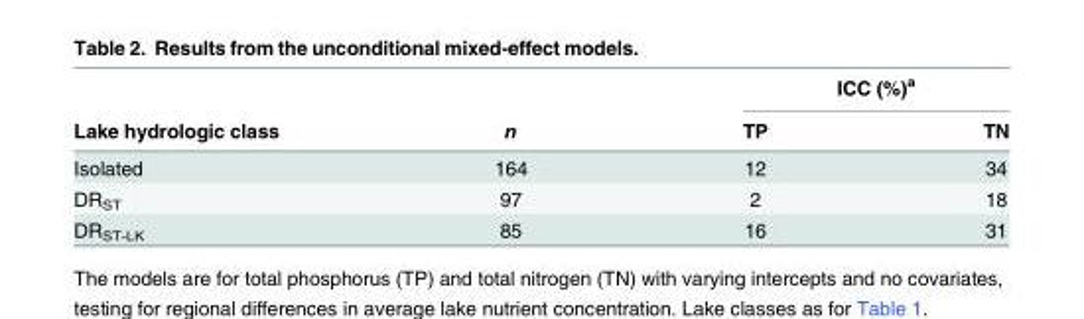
<table><thead><tr><td rowspan="2">Lake hydrologic class</td><td rowspan="2">n</td><td colspan="2">ICC (%)<sup>a</sup></td></tr><tr><td>TP</td><td>TN</td></tr></thead><tbody><tr><td>Isolated</td><td>164</td><td>12</td><td>34</td></tr><tr><td>DR<sub>ST</sub></td><td>97</td><td>2</td><td>18</td></tr><tr><td>DR<sub>ST-LK</sub></td><td>85</td><td>16</td><td>31</td></tr></tbody></table>